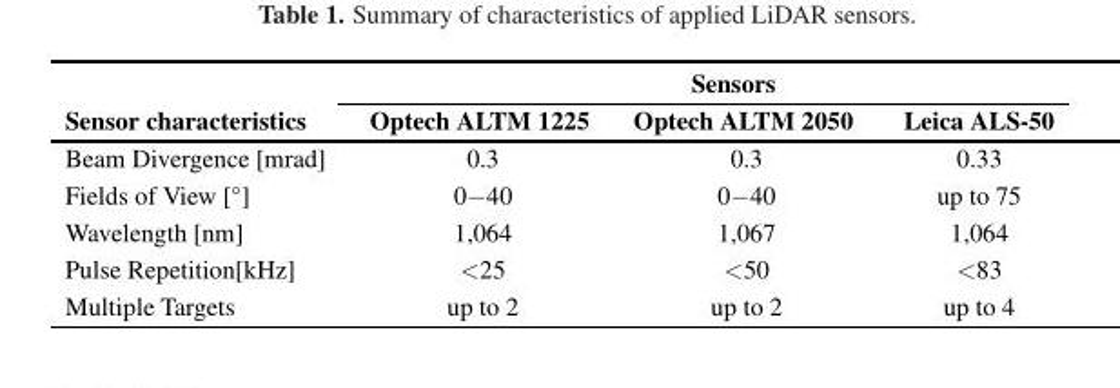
<table><thead><tr><td rowspan="2">Sensor characteristics</td><td colspan="3">Sensors</td></tr><tr><td>Optech ALTM 1225</td><td>Optech ALTM 2050</td><td>Leica ALS-50</td></tr></thead><tbody><tr><td>Beam Divergence [mrad]</td><td>0.3</td><td>0.3</td><td>0.33</td></tr><tr><td>Fields of View [◦]</td><td>0−40</td><td>0−40</td><td>up to 75</td></tr><tr><td>Wavelength [nm]</td><td>1,064</td><td>1,067</td><td>1,064</td></tr><tr><td>Pulse Repetition[kHz]</td><td>&lt;25</td><td>&lt;50</td><td>&lt;83</td></tr><tr><td>Multiple Targets</td><td>up to 2</td><td>up to 2</td><td>up to 4</td></tr></tbody></table>